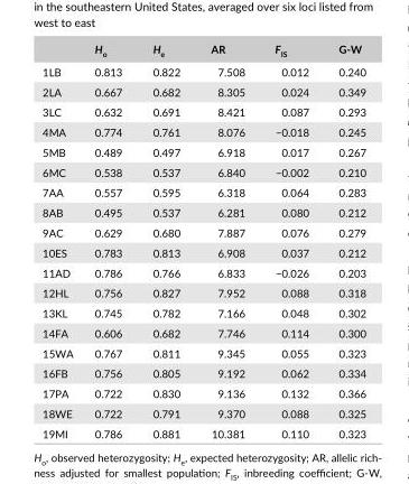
<table><thead><tr><td></td><td>H<sub>o</sub></td><td>H<sub>e</sub></td><td>AR</td><td>F<sub>IS</sub></td><td>G- W</td></tr></thead><tbody><tr><td>1LB</td><td>0.813</td><td>0.822</td><td>7.508</td><td>0.012</td><td>0.240</td></tr><tr><td>2LA</td><td>0.667</td><td>0.682</td><td>8.305</td><td>0.024</td><td>0.349</td></tr><tr><td>3LC</td><td>0.632</td><td>0.691</td><td>8.421</td><td>0.087</td><td>0.293</td></tr><tr><td>4MA</td><td>0.774</td><td>0.761</td><td>8.076</td><td>−0.018</td><td>0.245</td></tr><tr><td>5MB</td><td>0.489</td><td>0.497</td><td>6.918</td><td>0.017</td><td>0.267</td></tr><tr><td>6MC</td><td>0.538</td><td>0.537</td><td>6.840</td><td>−0.002</td><td>0.210</td></tr><tr><td>7AA</td><td>0.557</td><td>0.595</td><td>6.318</td><td>0.064</td><td>0.283</td></tr><tr><td>8AB</td><td>0.495</td><td>0.537</td><td>6.281</td><td>0.080</td><td>0.212</td></tr><tr><td>9AC</td><td>0.629</td><td>0.680</td><td>7.887</td><td>0.076</td><td>0.279</td></tr><tr><td>10ES</td><td>0.783</td><td>0.813</td><td>6.908</td><td>0.037</td><td>0.212</td></tr><tr><td>11AD</td><td>0.786</td><td>0.766</td><td>6.833</td><td>−0.026</td><td>0.203</td></tr><tr><td>12HL</td><td>0.756</td><td>0.827</td><td>7.952</td><td>0.088</td><td>0.318</td></tr><tr><td>13KL</td><td>0.745</td><td>0.782</td><td>7.166</td><td>0.048</td><td>0.302</td></tr><tr><td>14FA</td><td>0.606</td><td>0.682</td><td>7.746</td><td>0.114</td><td>0.300</td></tr><tr><td>15WA</td><td>0.767</td><td>0.811</td><td>9.345</td><td>0.055</td><td>0.323</td></tr><tr><td>16FB</td><td>0.756</td><td>0.805</td><td>9.192</td><td>0.062</td><td>0.334</td></tr><tr><td>17PA</td><td>0.722</td><td>0.830</td><td>9.136</td><td>0.132</td><td>0.366</td></tr><tr><td>18WE</td><td>0.722</td><td>0.791</td><td>9.370</td><td>0.088</td><td>0.325</td></tr><tr><td>19MI</td><td>0.786</td><td>0.881</td><td>10.381</td><td>0.110</td><td>0.323</td></tr></tbody></table>